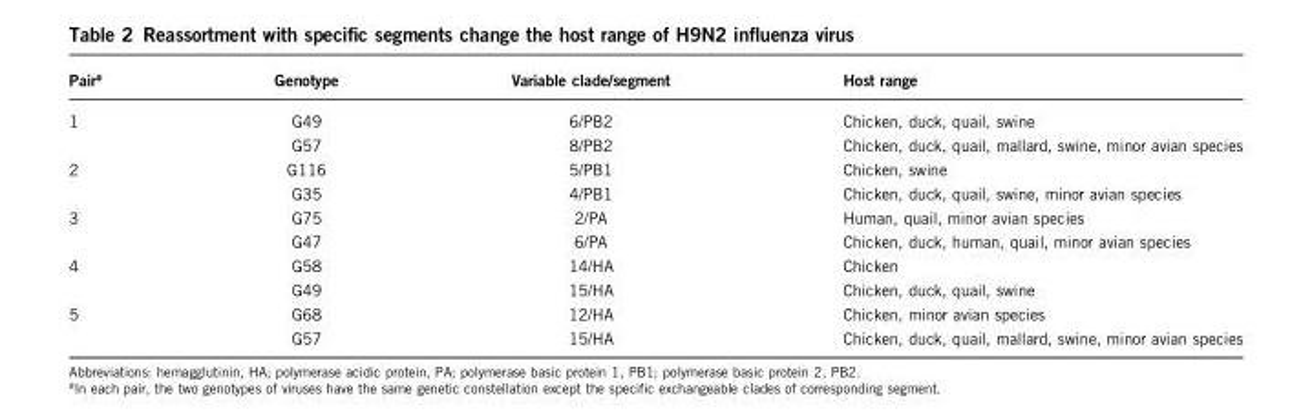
<table><thead><tr><td>Pair<sup>a</sup></td><td>Genotype</td><td>Variable clade/segment</td><td>Host range</td></tr></thead><tbody><tr><td rowspan="2">1</td><td>G49</td><td>6/PB2</td><td>Chicken, duck, quail, swine</td></tr><tr><td>G57</td><td>8/PB2</td><td>Chicken, duck, quail, mallard, swine, minor avian species</td></tr><tr><td rowspan="2">2</td><td>G116</td><td>5/PB1</td><td>Chicken, swine</td></tr><tr><td>G35</td><td>4/PB1</td><td>Chicken, duck, quail, swine, minor avian species</td></tr><tr><td rowspan="2">3</td><td>G75</td><td>2/PA</td><td>Human, quail, minor avian species</td></tr><tr><td>G47</td><td>6/PA</td><td>Chicken, duck, human, quail, minor avian species</td></tr><tr><td rowspan="2">4</td><td>G58</td><td>14/HA</td><td>Chicken</td></tr><tr><td>G49</td><td>15/HA</td><td>Chicken, duck, quail, swine</td></tr><tr><td rowspan="2">5</td><td>G68</td><td>12/HA</td><td>Chicken, minor avian species</td></tr><tr><td>G57</td><td>15/HA</td><td>Chicken, duck, quail, mallard, swine, minor avian species</td></tr></tbody></table>